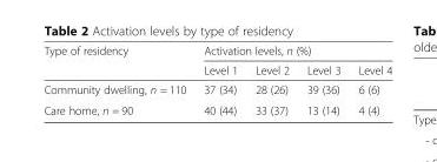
<table><thead><tr><td rowspan="2">Type of residency</td><td colspan="4">Activation levels, n (%)</td></tr><tr><td>Level 1</td><td>Level 2</td><td>Level 3</td><td>Level 4</td></tr></thead><tbody><tr><td>Community dwelling, n = 110</td><td>37 (34)</td><td>28 (26)</td><td>39 (36)</td><td>6 (6)</td></tr><tr><td>Care home, n = 90</td><td>40 (44)</td><td>33 (37)</td><td>13 (14)</td><td>4 (4)</td></tr></tbody></table>